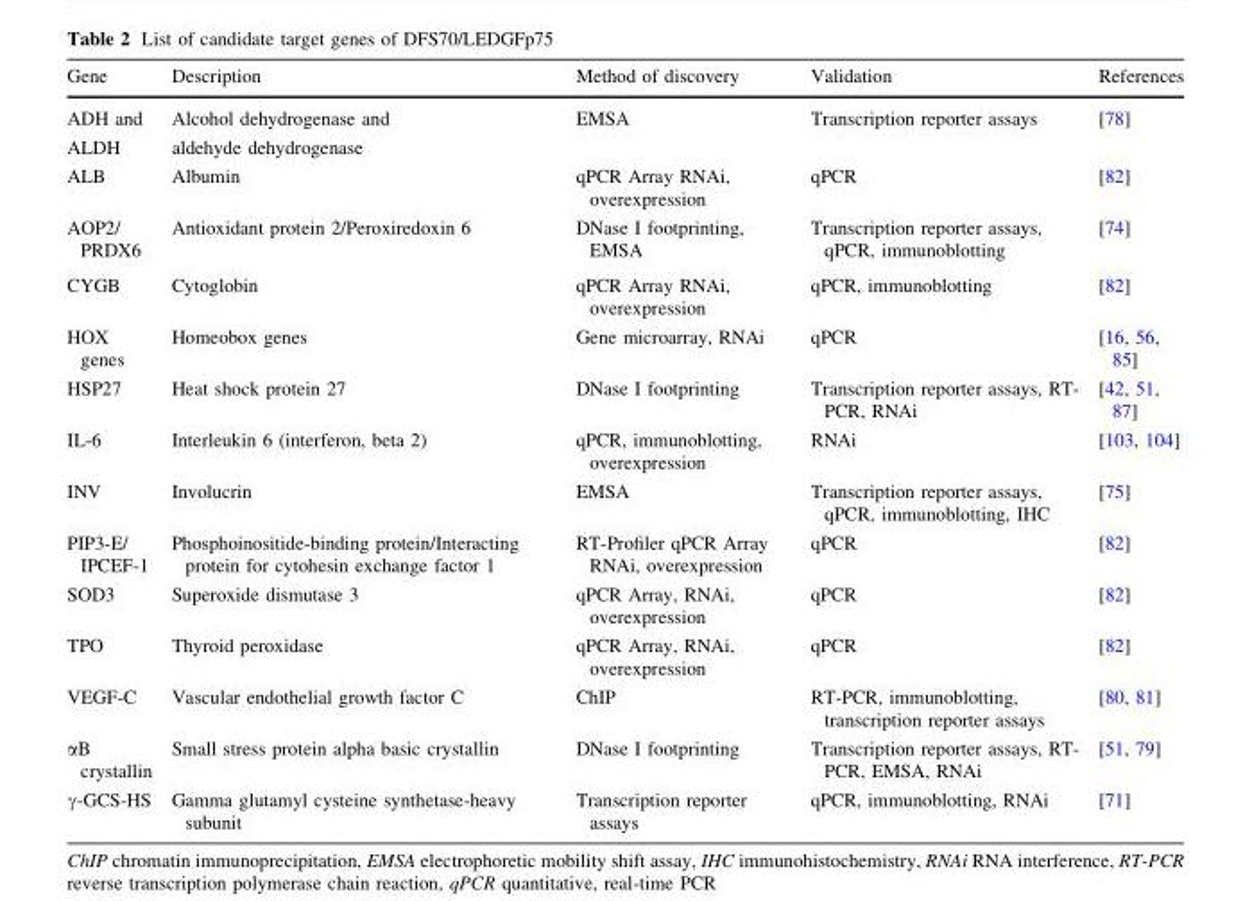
<table><thead><tr><td>Gene</td><td>Description</td><td>Method of discovery</td><td>Validation</td><td>References</td></tr></thead><tbody><tr><td>ADH and</td><td>Alcohol dehydrogenase and</td><td>EMSA</td><td>Transcription reporter assays</td><td>[78]</td></tr><tr><td>ALDH</td><td>aldehyde dehydrogenase</td><td></td><td></td><td></td></tr><tr><td>ALB</td><td>Albumin</td><td>qPCR Array RNAi, overexpression</td><td>qPCR</td><td>[82]</td></tr><tr><td>AOP2/ PRDX6</td><td>Antioxidant protein 2/Peroxiredoxin 6</td><td>DNase I footprinting, EMSA</td><td>Transcription reporter assays, qPCR, immunoblotting</td><td>[74]</td></tr><tr><td>CYGB</td><td>Cytoglobin</td><td>qPCR Array RNAi, overexpression</td><td>qPCR, immunoblotting</td><td>[82]</td></tr><tr><td>HOX genes</td><td>Homeobox genes</td><td>Gene microarray, RNAi</td><td>qPCR</td><td>[16, 56, 85]</td></tr><tr><td>HSP27</td><td>Heat shock protein 27</td><td>DNase I footprinting</td><td>Transcription reporter assays, RT- PCR, RNAi</td><td>[42, 51, 87]</td></tr><tr><td>IL-6</td><td>Interleukin 6 (interferon, beta 2)</td><td>qPCR, immunoblotting, overexpression</td><td>RNAi</td><td>[103, 104]</td></tr><tr><td>INV</td><td>Involucrin</td><td>EMSA</td><td>Transcription reporter assays, qPCR, immunoblotting, IHC</td><td>[75]</td></tr><tr><td>PIP3-E/ IPCEF-1</td><td>Phosphoinositide-binding protein/Interacting protein for cytohesin exchange factor 1</td><td>RT-Profiler qPCR Array RNAi, overexpression</td><td>qPCR</td><td>[82]</td></tr><tr><td>SOD3</td><td>Superoxide dismutase 3</td><td>qPCR Array, RNAi, overexpression</td><td>qPCR</td><td>[82]</td></tr><tr><td>TPO</td><td>Thyroid peroxidase</td><td>qPCR Array, RNAi, overexpression</td><td>qPCR</td><td>[82]</td></tr><tr><td>VEGF-C</td><td>Vascular endothelial growth factor C</td><td>ChIP</td><td>RT-PCR, immunoblotting, transcription reporter assays</td><td>[80, 81]</td></tr><tr><td>αB crystallin</td><td>Small stress protein alpha basic crystallin</td><td>DNase I footprinting</td><td>Transcription reporter assays, RT- PCR, EMSA, RNAi</td><td>[51, 79]</td></tr><tr><td>γ-GCS-HS</td><td>Gamma glutamyl cysteine synthetase-heavy subunit</td><td>Transcription reporter assays</td><td>qPCR, immunoblotting, RNAi</td><td>[71]</td></tr></tbody></table>